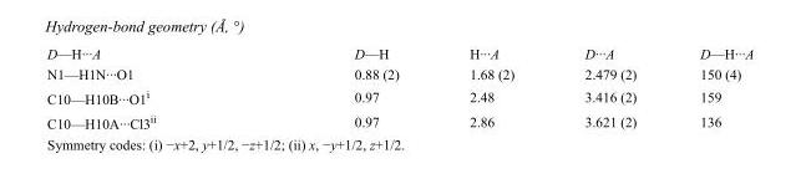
<table><tbody><tr><td>D—H···A</td><td>D—H</td><td>H···A</td><td>D···A</td><td>D—H···A</td></tr><tr><td>N1—H1N···O1</td><td>0.88 (2)</td><td>1.68 (2)</td><td>2.479 (2)</td><td>150 (4)</td></tr><tr><td>C10—H10B···O1<sup>i</sup></td><td>0.97</td><td>2.48</td><td>3.416 (2)</td><td>159</td></tr><tr><td>C10—H10A···Cl3<sup>ii</sup></td><td>0.97</td><td>2.86</td><td>3.621 (2)</td><td>136</td></tr></tbody></table>